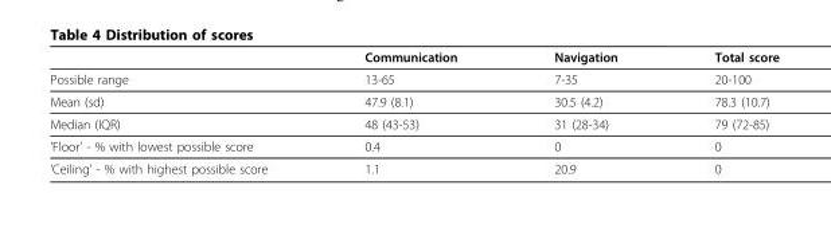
<table><thead><tr><td></td><td>Communication</td><td>Navigation</td><td>Total score</td></tr></thead><tbody><tr><td>Possible range</td><td>13-65</td><td>7-35</td><td>20-100</td></tr><tr><td>Mean (sd)</td><td>47.9 (8.1)</td><td>30.5 (4.2)</td><td>78.3 (10.7)</td></tr><tr><td>Median (IQR)</td><td>48 (43-53)</td><td>31 (28-34)</td><td>79 (72-85)</td></tr><tr><td>’Floor’ - % with lowest possible score</td><td>0.4</td><td>0</td><td>0</td></tr><tr><td>’Ceiling’ - % with highest possible score</td><td>1.1</td><td>20.9</td><td>0</td></tr></tbody></table>